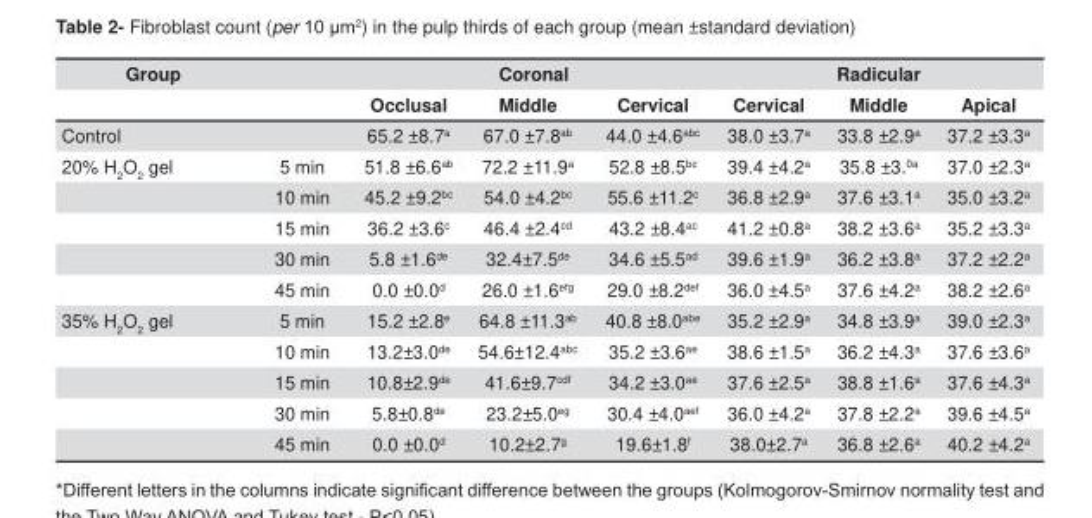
<table><thead><tr><td rowspan="2">Group</td><td rowspan="2"></td><td colspan="3">Coronal</td><td colspan="3">Radicular</td></tr><tr><td>Occlusal</td><td>Middle</td><td>Cervical</td><td>Cervical</td><td>Middle</td><td>Apical</td></tr></thead><tbody><tr><td>Control</td><td></td><td>65.2 ±8.7a</td><td>67.0 ±7.8ab</td><td>44.0 ±4.6abc</td><td>38.0 ±3.7a</td><td>33.8 ±2.9a</td><td>37.2 ±3.3a</td></tr><tr><td rowspan="5">20% H2O2 gel</td><td>5 min</td><td>51.8 ±6.6ab</td><td>72.2 ±11.9a</td><td>52.8 ±8.5bc</td><td>39.4 ±4.2a</td><td>35.8 ±3.0a</td><td>37.0 ±2.3a</td></tr><tr><td>10 min</td><td>45.2 ±9.2bc</td><td>54.0 ±4.2bc</td><td>55.6 ±11.2c</td><td>36.8 ±2.9a</td><td>37.6 ±3.1a</td><td>35.0 ±3.2a</td></tr><tr><td>15 min</td><td>36.2 ±3.6c</td><td>46.4 ±2.4cd</td><td>43.2 ±8.4ac</td><td>41.2 ±0.8a</td><td>38.2 ±3.6a</td><td>35.2 ±3.3a</td></tr><tr><td>30 min</td><td>5.8 ±1.6de</td><td>32.4±7.5de</td><td>34.6 ±5.5ad</td><td>39.6 ±1.9a</td><td>36.2 ±3.8a</td><td>37.2 ±2.2a</td></tr><tr><td>45 min</td><td>0.0 ±0.0d</td><td>26.0 ±1.6efg</td><td>29.0 ±8.2def</td><td>36.0 ±4.5a</td><td>37.6 ±4.2a</td><td>38.2 ±2.6a</td></tr><tr><td rowspan="5">35% H2O2 gel</td><td>5 min</td><td>15.2 ±2.8e</td><td>64.8 ±11.3ab</td><td>40.8 ±8.0abe</td><td>35.2 ±2.9a</td><td>34.8 ±3.9a</td><td>39.0 ±2.3a</td></tr><tr><td>10 min</td><td>13.2±3.0de</td><td>54.6±12.4abc</td><td>35.2 ±3.6ae</td><td>38.6 ±1.5a</td><td>36.2 ±4.3a</td><td>37.6 ±3.6a</td></tr><tr><td>15 min</td><td>10.8±2.9de</td><td>41.6±9.7cdf</td><td>34.2 ±3.0ae</td><td>37.6 ±2.5a</td><td>38.8 ±1.6a</td><td>37.6 ±4.3a</td></tr><tr><td>30 min</td><td>5.8±0.8de</td><td>23.2±5.0eg</td><td>30.4 ±4.0aef</td><td>36.0 ±4.2a</td><td>37.8 ±2.2a</td><td>39.6 ±4.5a</td></tr><tr><td>45 min</td><td>0.0 ±0.0d</td><td>10.2±2.7g</td><td>19.6±1.8f</td><td>38.0±2.7a</td><td>36.8 ±2.6a</td><td>40.2 ±4.2a</td></tr></tbody></table>